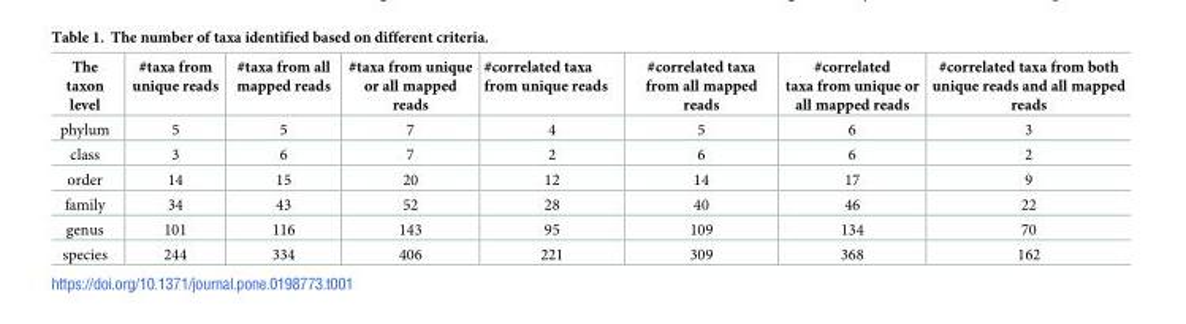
<table><thead><tr><td>The taxon level</td><td>#taxa from unique reads</td><td>#taxa from all mapped reads</td><td>#taxa from unique or all mapped reads</td><td>#correlated taxa from unique reads</td><td>#correlated taxa from all mapped reads</td><td>#correlated taxa from unique or all mapped reads</td><td>#correlated taxa from both unique reads and all mapped reads</td></tr></thead><tbody><tr><td>phylum</td><td>5</td><td>5</td><td>7</td><td>4</td><td>5</td><td>6</td><td>3</td></tr><tr><td>class</td><td>3</td><td>6</td><td>7</td><td>2</td><td>6</td><td>6</td><td>2</td></tr><tr><td>order</td><td>14</td><td>15</td><td>20</td><td>12</td><td>14</td><td>17</td><td>9</td></tr><tr><td>family</td><td>34</td><td>43</td><td>52</td><td>28</td><td>40</td><td>46</td><td>22</td></tr><tr><td>genus</td><td>101</td><td>116</td><td>143</td><td>95</td><td>109</td><td>134</td><td>70</td></tr><tr><td>species</td><td>244</td><td>334</td><td>406</td><td>221</td><td>309</td><td>368</td><td>162</td></tr></tbody></table>